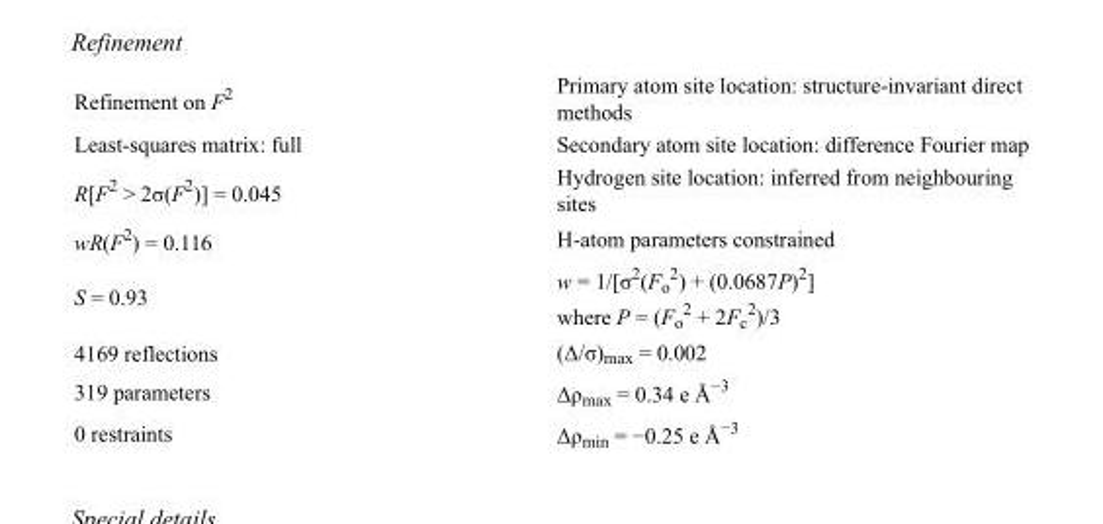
<table><tbody><tr><td>Refinement on F<sup>2</sup></td><td>Primary atom site location: structure-invariant direct methods</td></tr><tr><td>Least-squares matrix: full</td><td>Secondary atom site location: difference Fourier map</td></tr><tr><td>R[F<sup>2</sup> &gt; 2σ(F<sup>2</sup>)] = 0.045</td><td>Hydrogen site location: inferred from neighbouring sites</td></tr><tr><td>wR(F<sup>2</sup>) = 0.116</td><td>H-atom parameters constrained</td></tr><tr><td>S = 0.93</td><td>w = 1/[σ<sup>2</sup>(F<sub>o</sub> <sup>2</sup>) + (0.0687P)<sup>2</sup>] where P = (F<sub>o</sub> <sup>2</sup> + 2F<sub>c</sub> <sup>2</sup>)/3</td></tr><tr><td>4169 reflections</td><td>(Δ/σ)<sub>max</sub> = 0.002</td></tr><tr><td>319 parameters</td><td>Δρ<sub>max</sub> = 0.34 e Å<sup>−3</sup></td></tr><tr><td>0 restraints</td><td>Δρ<sub>min</sub> = −0.25 e Å<sup>−3</sup></td></tr></tbody></table>